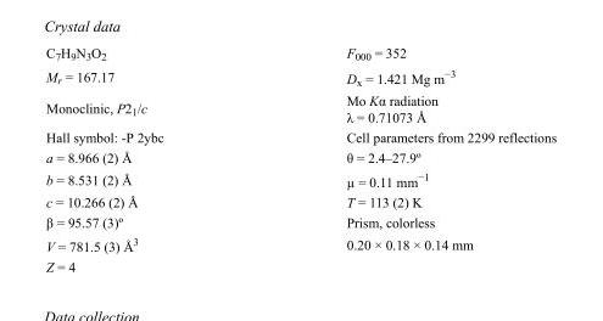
<table><tbody><tr><td>C<sub>7</sub>H<sub>9</sub>N<sub>3</sub>O<sub>2</sub></td><td>F<sub>000</sub> = 352</td></tr><tr><td>M<sub>r</sub> = 167.17</td><td>D<sub>x</sub> = 1.421 Mg m<sup>−3</sup></td></tr><tr><td>Monoclinic, P2<sub>1</sub>/c</td><td>Mo Kα radiation λ = 0.71073 Å</td></tr><tr><td>Hall symbol: -P 2ybc</td><td>Cell parameters from 2299 reflections</td></tr><tr><td>a = 8.966 (2) Å</td><td>θ = 2.4–27.9º</td></tr><tr><td>b = 8.531 (2) Å</td><td>µ = 0.11 mm<sup>−1</sup></td></tr><tr><td>c = 10.266 (2) Å</td><td>T = 113 (2) K</td></tr><tr><td>β = 95.57 (3)º</td><td>Prism, colorless</td></tr><tr><td>V = 781.5 (3) Å<sup>3</sup></td><td>0.20 × 0.18 × 0.14 mm</td></tr><tr><td>Z = 4</td><td></td></tr></tbody></table>